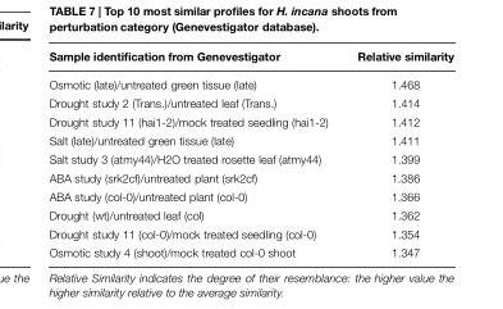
<table><thead><tr><td>Sample identification from Genevestigator</td><td>Relative similarity</td></tr></thead><tbody><tr><td>Osmotic (late)/untreated green tissue (late)</td><td>1.468</td></tr><tr><td>Drought study 2 (Trans.)/untreated leaf (Trans.)</td><td>1.414</td></tr><tr><td>Drought study 11 (hai1-2)/mock treated seedling (hai1-2)</td><td>1.412</td></tr><tr><td>Salt (late)/untreated green tissue (late)</td><td>1.411</td></tr><tr><td>Salt study 3 (atmy44)/H2O treated rosette leaf (atmy44)</td><td>1.399</td></tr><tr><td>ABA study (srk2cf)/untreated plant (srk2cf)</td><td>1.386</td></tr><tr><td>ABA study (col-0)/untreated plant (col-0)</td><td>1.366</td></tr><tr><td>Drought (wt)/untreated leaf (col)</td><td>1.362</td></tr><tr><td>Drought study 11 (col-0)/mock treated seedling (col-0)</td><td>1.354</td></tr><tr><td>Osmotic study 4 (shoot)/mock treated col-0 shoot</td><td>1.347</td></tr></tbody></table>